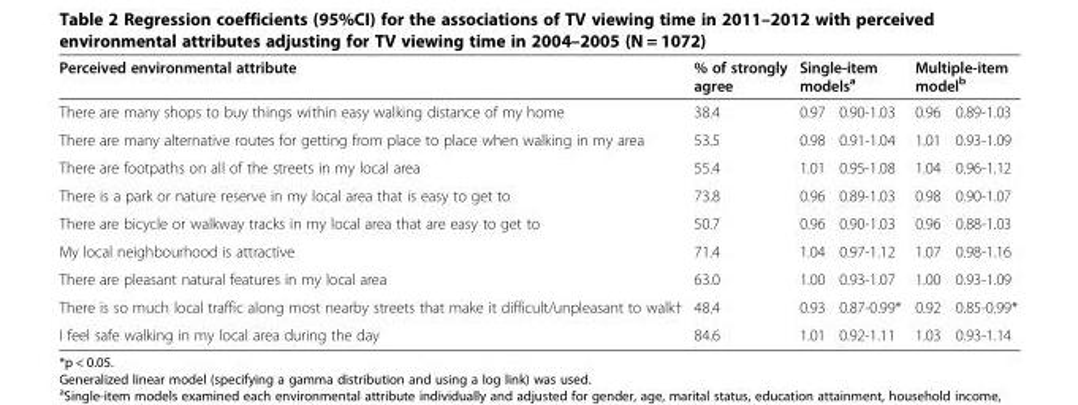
<table><thead><tr><td rowspan="2">Perceived environmental attribute There are many shops to buy things within easy walking distance of my home</td><td rowspan="2">% of strongly agree 38.4</td><td colspan="2">Single-item models<sup>a</sup></td><td colspan="2">Multiple-item model<sup>b</sup></td></tr><tr><td>0.97</td><td>0.90-1.03</td><td>0.96</td><td>0.89-1.03</td></tr></thead><tbody><tr><td>There are many alternative routes for getting from place to place when walking in my area</td><td>53.5</td><td>0.98</td><td>0.91-1.04</td><td>1.01</td><td>0.93-1.09</td></tr><tr><td>There are footpaths on all of the streets in my local area</td><td>55.4</td><td>1.01</td><td>0.95-1.08</td><td>1.04</td><td>0.96-1.12</td></tr><tr><td>There is a park or nature reserve in my local area that is easy to get to</td><td>73.8</td><td>0.96</td><td>0.89-1.03</td><td>0.98</td><td>0.90-1.07</td></tr><tr><td>There are bicycle or walkway tracks in my local area that are easy to get to</td><td>50.7</td><td>0.96</td><td>0.90-1.03</td><td>0.96</td><td>0.88-1.03</td></tr><tr><td>My local neighbourhood is attractive</td><td>71.4</td><td>1.04</td><td>0.97-1.12</td><td>1.07</td><td>0.98-1.16</td></tr><tr><td>There are pleasant natural features in my local area</td><td>63.0</td><td>1.00</td><td>0.93-1.07</td><td>1.00</td><td>0.93-1.09</td></tr><tr><td>There is so much local traffic along most nearby streets that make it difficult/unpleasant to walk†</td><td>48.4</td><td>0.93</td><td>0.87-0.99*</td><td>0.92</td><td>0.85-0.99*</td></tr><tr><td>I feel safe walking in my local area during the day</td><td>84.6</td><td>1.01</td><td>0.92-1.11</td><td>1.03</td><td>0.93-1.14</td></tr></tbody></table>